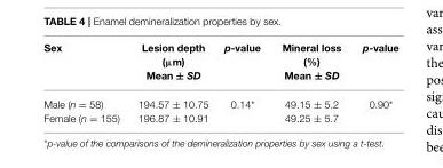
<table><thead><tr><td>Sex</td><td>Lesion depth (µm) Mean ± SD</td><td>p-value</td><td>Mineral loss (%) Mean ± SD</td><td>p-value</td></tr></thead><tbody><tr><td>Male (n = 58) Female (n = 155)</td><td>194.57 ± 10.75 196.87 ± 10.91</td><td>0.14*</td><td>49.15 ± 5.2 49.25 ± 5.7</td><td>0.90*</td></tr></tbody></table>